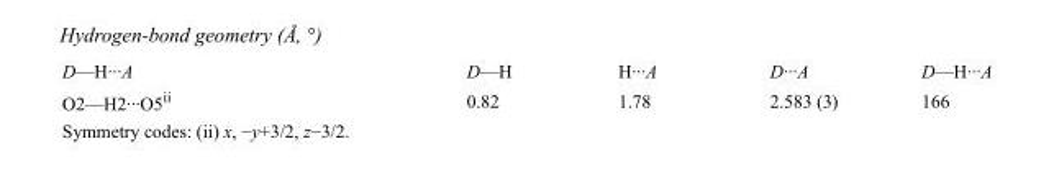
<table><tbody><tr><td>D—H···A</td><td>D—H</td><td>H···A</td><td>D···A</td><td>D—H···A</td></tr><tr><td>O2—H2···O5<sup>ii</sup></td><td>0.82</td><td>1.78</td><td>2.583 (3)</td><td>166</td></tr></tbody></table>